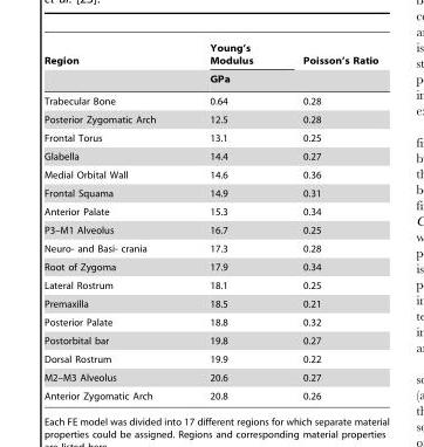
<table><thead><tr><td rowspan="2">Region</td><td rowspan="2">Young’s Modulus GPa</td><td rowspan="2">Poisson’s Ratio</td></tr><tr></tr></thead><tbody><tr><td>Trabecular Bone</td><td>0.64</td><td>0.28</td></tr><tr><td>Posterior Zygomatic Arch</td><td>12.5</td><td>0.28</td></tr><tr><td>Frontal Torus</td><td>13.1</td><td>0.25</td></tr><tr><td>Glabella</td><td>14.4</td><td>0.27</td></tr><tr><td>Medial Orbital Wall</td><td>14.6</td><td>0.36</td></tr><tr><td>Frontal Squama</td><td>14.9</td><td>0.31</td></tr><tr><td>Anterior Palate</td><td>15.3</td><td>0.34</td></tr><tr><td>P3–M1 Alveolus</td><td>16.7</td><td>0.25</td></tr><tr><td>Neuro- and Basi- crania</td><td>17.3</td><td>0.28</td></tr><tr><td>Root of Zygoma</td><td>17.9</td><td>0.34</td></tr><tr><td>Lateral Rostrum</td><td>18.1</td><td>0.25</td></tr><tr><td>Premaxilla</td><td>18.5</td><td>0.21</td></tr><tr><td>Posterior Palate</td><td>18.8</td><td>0.32</td></tr><tr><td>Postorbital bar</td><td>19.8</td><td>0.27</td></tr><tr><td>Dorsal Rostrum</td><td>19.9</td><td>0.22</td></tr><tr><td>M2–M3 Alveolus</td><td>20.6</td><td>0.27</td></tr><tr><td>Anterior Zygomatic Arch</td><td>20.8</td><td>0.26</td></tr></tbody></table>